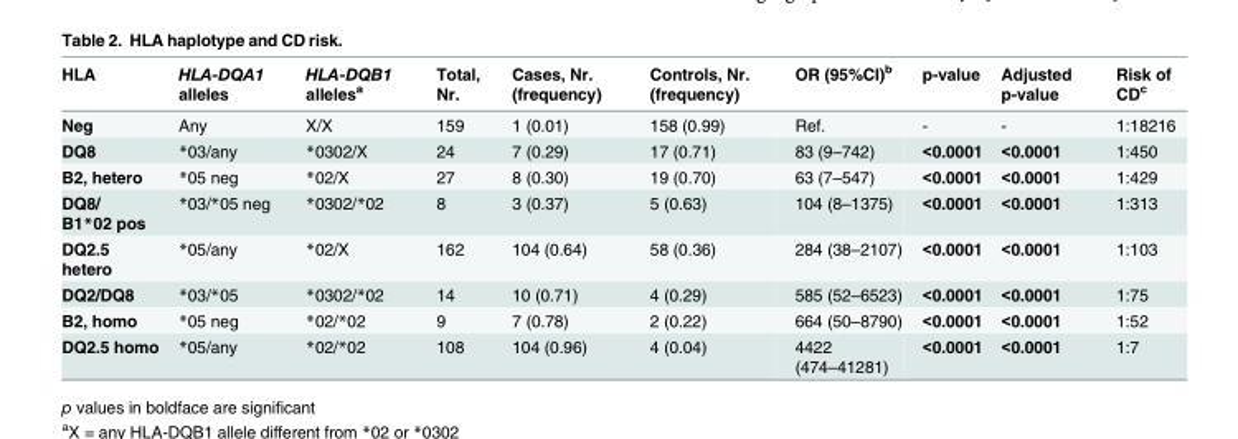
<table><thead><tr><td>HLA</td><td>HLA-DQA1 alleles</td><td>HLA-DQB1 alleles<sup>a</sup></td><td>Total, Nr.</td><td>Cases, Nr. (frequency)</td><td>Controls, Nr. (frequency)</td><td>OR (95%CI)<sup>b</sup></td><td>p-value</td><td>Adjusted p-value</td><td>Risk of CD<sup>c</sup></td></tr></thead><tbody><tr><td>Neg</td><td>Any</td><td>X/X</td><td>159</td><td>1 (0.01)</td><td>158 (0.99)</td><td>Ref.</td><td>-</td><td>-</td><td>1:18216</td></tr><tr><td>DQ8</td><td>*03/any</td><td>*0302/X</td><td>24</td><td>7 (0.29)</td><td>17 (0.71)</td><td>83 (9–742)</td><td>&lt;0.0001</td><td>&lt;0.0001</td><td>1:450</td></tr><tr><td>B2, hetero</td><td>*05 neg</td><td>*02/X</td><td>27</td><td>8 (0.30)</td><td>19 (0.70)</td><td>63 (7–547)</td><td>&lt;0.0001</td><td>&lt;0.0001</td><td>1:429</td></tr><tr><td>DQ8/ B1*02 pos</td><td>*03/*05 neg</td><td>*0302/*02</td><td>8</td><td>3 (0.37)</td><td>5 (0.63)</td><td>104 (8–1375)</td><td>&lt;0.0001</td><td>&lt;0.0001</td><td>1:313</td></tr><tr><td>DQ2.5 hetero</td><td>*05/any</td><td>*02/X</td><td>162</td><td>104 (0.64)</td><td>58 (0.36)</td><td>284 (38–2107)</td><td>&lt;0.0001</td><td>&lt;0.0001</td><td>1:103</td></tr><tr><td>DQ2/DQ8</td><td>*03/*05</td><td>*0302/*02</td><td>14</td><td>10 (0.71)</td><td>4 (0.29)</td><td>585 (52–6523)</td><td>&lt;0.0001</td><td>&lt;0.0001</td><td>1:75</td></tr><tr><td>B2, homo</td><td>*05 neg</td><td>*02/*02</td><td>9</td><td>7 (0.78)</td><td>2 (0.22)</td><td>664 (50–8790)</td><td>&lt;0.0001</td><td>&lt;0.0001</td><td>1:52</td></tr><tr><td>DQ2.5 homo</td><td>*05/any</td><td>*02/*02</td><td>108</td><td>104 (0.96)</td><td>4 (0.04)</td><td>4422 (474–41281)</td><td>&lt;0.0001</td><td>&lt;0.0001</td><td>1:7</td></tr></tbody></table>